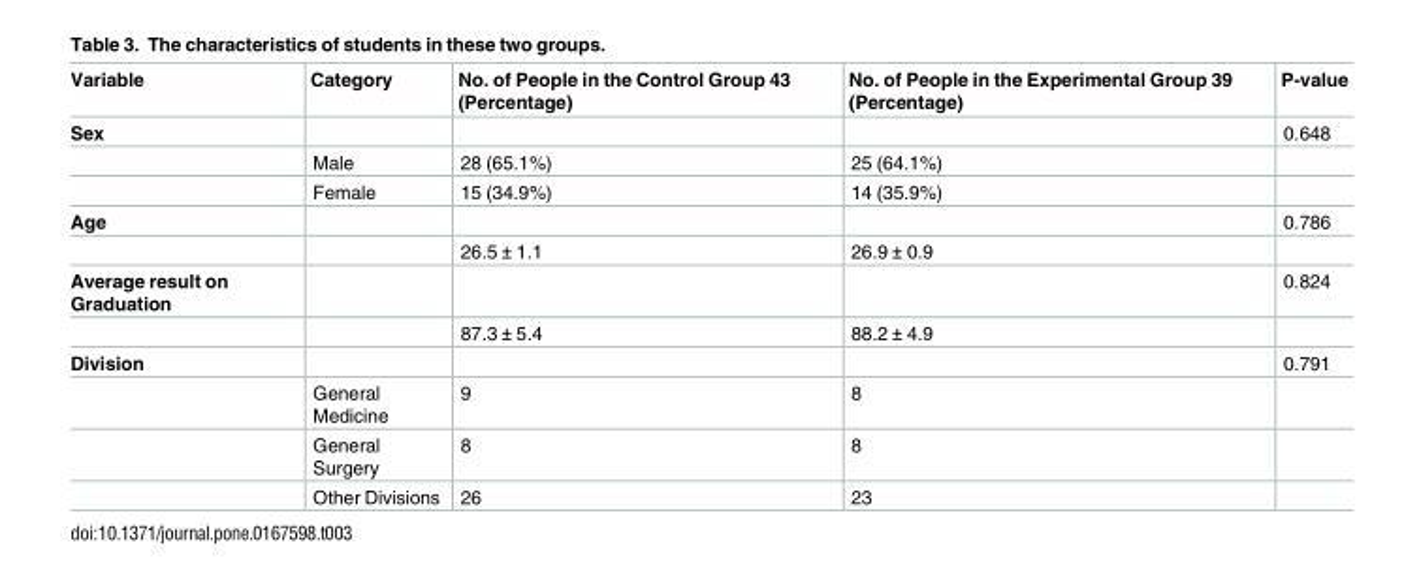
<table><thead><tr><td>Variable</td><td>Category</td><td>No. of People in the Control Group 43 (Percentage)</td><td>No. of People in the Experimental Group 39 (Percentage)</td><td>P-value</td></tr></thead><tbody><tr><td rowspan="3">Sex</td><td></td><td></td><td></td><td>0.648</td></tr><tr><td>Male</td><td>28 (65.1%)</td><td>25 (64.1%)</td><td></td></tr><tr><td>Female</td><td>15 (34.9%)</td><td>14 (35.9%)</td><td></td></tr><tr><td rowspan="2">Age</td><td></td><td></td><td></td><td>0.786</td></tr><tr><td></td><td>26.5 ± 1.1</td><td>26.9 ± 0.9</td><td></td></tr><tr><td rowspan="2">Average result on Graduation</td><td></td><td></td><td></td><td>0.824</td></tr><tr><td></td><td>87.3 ± 5.4</td><td>88.2 ± 4.9</td><td></td></tr><tr><td rowspan="4">Division</td><td></td><td></td><td></td><td>0.791</td></tr><tr><td>General Medicine</td><td>9</td><td>8</td><td></td></tr><tr><td>General Surgery</td><td>8</td><td>8</td><td></td></tr><tr><td>Other Divisions</td><td>26</td><td>23</td><td></td></tr></tbody></table>